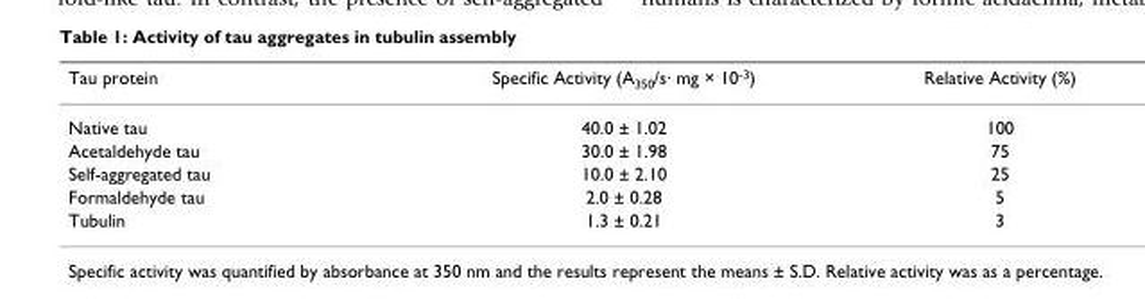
<table><thead><tr><td>Tau protein</td><td>Specific Activity (A350/s· mg × 10-3)</td><td>Relative Activity (%)</td></tr></thead><tbody><tr><td>Native tau</td><td>40.0 ± 1.02</td><td>100</td></tr><tr><td>Acetaldehyde tau</td><td>30.0 ± 1.98</td><td>75</td></tr><tr><td>Self-aggregated tau</td><td>10.0 ± 2.10</td><td>25</td></tr><tr><td>Formaldehyde tau</td><td>2.0 ± 0.28</td><td>5</td></tr><tr><td>Tubulin</td><td>1.3 ± 0.21</td><td>3</td></tr></tbody></table>